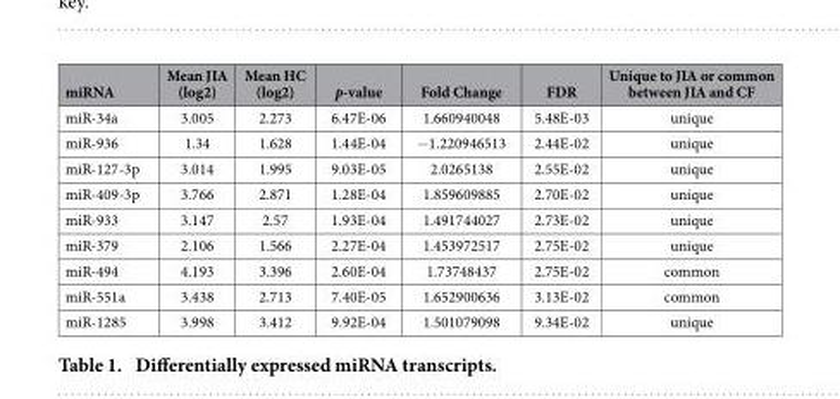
<table><thead><tr><td>miRNA</td><td>Mean JIA (log2)</td><td>Mean HC (log2)</td><td>p-value</td><td>Fold Change</td><td>FDR</td><td>Unique to JIA or common between JIA and CF</td></tr></thead><tbody><tr><td>miR-34a</td><td>3.005</td><td>2.273</td><td>6.47E-06</td><td>1.660940048</td><td>5.48E-03</td><td>unique</td></tr><tr><td>miR-936</td><td>1.34</td><td>1.628</td><td>1.44E-04</td><td>− 1.220946513</td><td>2.44E-02</td><td>unique</td></tr><tr><td>miR-127-3p</td><td>3.014</td><td>1.995</td><td>9.03E-05</td><td>2.0265138</td><td>2.55E-02</td><td>unique</td></tr><tr><td>miR-409-3p</td><td>3.766</td><td>2.871</td><td>1.28E-04</td><td>1.859609885</td><td>2.70E-02</td><td>unique</td></tr><tr><td>miR-933</td><td>3.147</td><td>2.57</td><td>1.93E-04</td><td>1.491744027</td><td>2.73E-02</td><td>unique</td></tr><tr><td>miR-379</td><td>2.106</td><td>1.566</td><td>2.27E-04</td><td>1.453972517</td><td>2.75E-02</td><td>unique</td></tr><tr><td>miR-494</td><td>4.193</td><td>3.396</td><td>2.60E-04</td><td>1.73748437</td><td>2.75E-02</td><td>common</td></tr><tr><td>miR-551a</td><td>3.438</td><td>2.713</td><td>7.40E-05</td><td>1.652900636</td><td>3.13E-02</td><td>common</td></tr><tr><td>miR-1285</td><td>3.998</td><td>3.412</td><td>9.92E-04</td><td>1.501079098</td><td>9.34E-02</td><td>unique</td></tr></tbody></table>